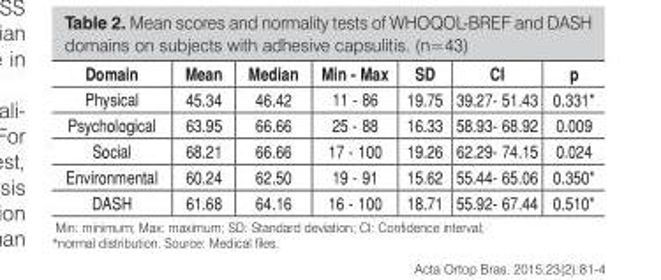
<table><thead><tr><td>Domain</td><td>Mean</td><td>Median</td><td>Min - Max</td><td>SD</td><td>CI</td><td>p</td></tr></thead><tbody><tr><td>Physical</td><td>45.34</td><td>46.42</td><td>11 - 86</td><td>19.75</td><td>39.27- 51.43</td><td>0.331*</td></tr><tr><td>Psychological</td><td>63.95</td><td>66.66</td><td>25 - 88</td><td>16.33</td><td>58.93- 68.92</td><td>0.009</td></tr><tr><td>Social</td><td>68.21</td><td>66.66</td><td>17 - 100</td><td>19.26</td><td>62.29- 74.15</td><td>0.024</td></tr><tr><td>Environmental</td><td>60.24</td><td>62.50</td><td>19 - 91</td><td>15.62</td><td>55.44- 65.06</td><td>0.350*</td></tr><tr><td>DASH</td><td>61.68</td><td>64.16</td><td>16 - 100</td><td>18.71</td><td>55.92- 67.44</td><td>0.510*</td></tr></tbody></table>